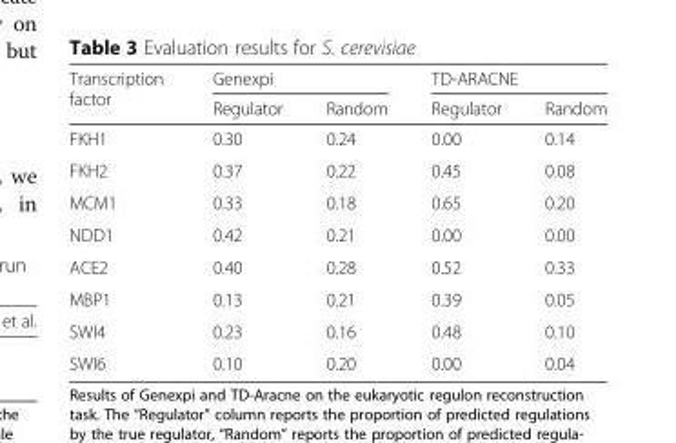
<table><thead><tr><td rowspan="2">Transcription factor</td><td colspan="2">Genexpi</td><td colspan="2">TD-ARACNE</td></tr><tr><td>Regulator</td><td>Random</td><td>Regulator</td><td>Random</td></tr></thead><tbody><tr><td>FKH1</td><td>0.30</td><td>0.24</td><td>0.00</td><td>0.14</td></tr><tr><td>FKH2</td><td>0.37</td><td>0.22</td><td>0.45</td><td>0.08</td></tr><tr><td>MCM1</td><td>0.33</td><td>0.18</td><td>0.65</td><td>0.20</td></tr><tr><td>NDD1</td><td>0.42</td><td>0.21</td><td>0.00</td><td>0.00</td></tr><tr><td>ACE2</td><td>0.40</td><td>0.28</td><td>0.52</td><td>0.33</td></tr><tr><td>MBP1</td><td>0.13</td><td>0.21</td><td>0.39</td><td>0.05</td></tr><tr><td>SWI4</td><td>0.23</td><td>0.16</td><td>0.48</td><td>0.10</td></tr><tr><td>SWI6</td><td>0.10</td><td>0.20</td><td>0.00</td><td>0.04</td></tr></tbody></table>